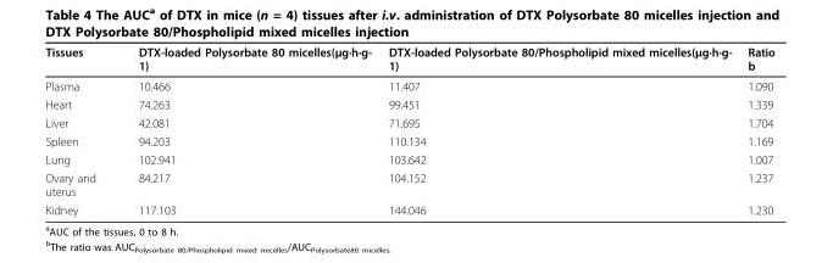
<table><thead><tr><td>Tissues</td><td>DTX-loaded Polysorbate 80 micelles(μg·h·g- 1)</td><td>DTX-loaded Polysorbate 80/Phospholipid mixed micelles(μg·h·g- 1)</td><td>Ratio b</td></tr></thead><tbody><tr><td>Plasma</td><td>10.466</td><td>11.407</td><td>1.090</td></tr><tr><td>Heart</td><td>74.263</td><td>99.451</td><td>1.339</td></tr><tr><td>Liver</td><td>42.081</td><td>71.695</td><td>1.704</td></tr><tr><td>Spleen</td><td>94.203</td><td>110.134</td><td>1.169</td></tr><tr><td>Lung</td><td>102.941</td><td>103.642</td><td>1.007</td></tr><tr><td>Ovary and uterus</td><td>84.217</td><td>104.152</td><td>1.237</td></tr><tr><td>Kidney</td><td>117.103</td><td>144.046</td><td>1.230</td></tr></tbody></table>